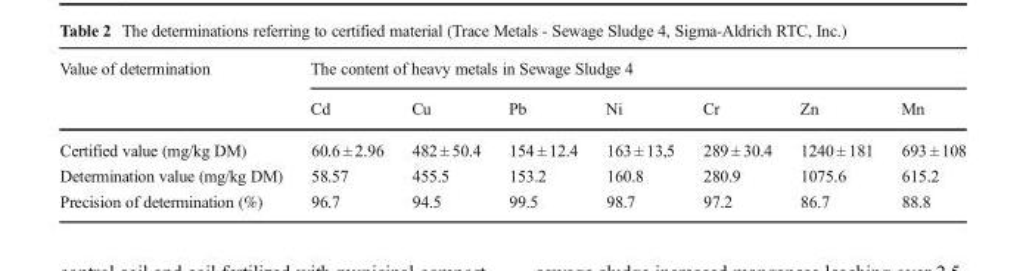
<table><thead><tr><td rowspan="2">Value of determination</td><td colspan="7">The content of heavy metals in Sewage Sludge 4</td></tr><tr><td>Cd</td><td>Cu</td><td>Pb</td><td>Ni</td><td>Cr</td><td>Zn</td><td>Mn</td></tr></thead><tbody><tr><td>Certified value (mg/kg DM)</td><td>60.6 ± 2.96</td><td>482 ± 50.4</td><td>154 ± 12.4</td><td>163 ± 13,5</td><td>289 ± 30.4</td><td>1240 ± 181</td><td>693 ± 108</td></tr><tr><td>Determination value (mg/kg DM)</td><td>58.57</td><td>455.5</td><td>153.2</td><td>160.8</td><td>280.9</td><td>1075.6</td><td>615.2</td></tr><tr><td>Precision of determination (%)</td><td>96.7</td><td>94.5</td><td>99.5</td><td>98.7</td><td>97.2</td><td>86.7</td><td>88.8</td></tr></tbody></table>